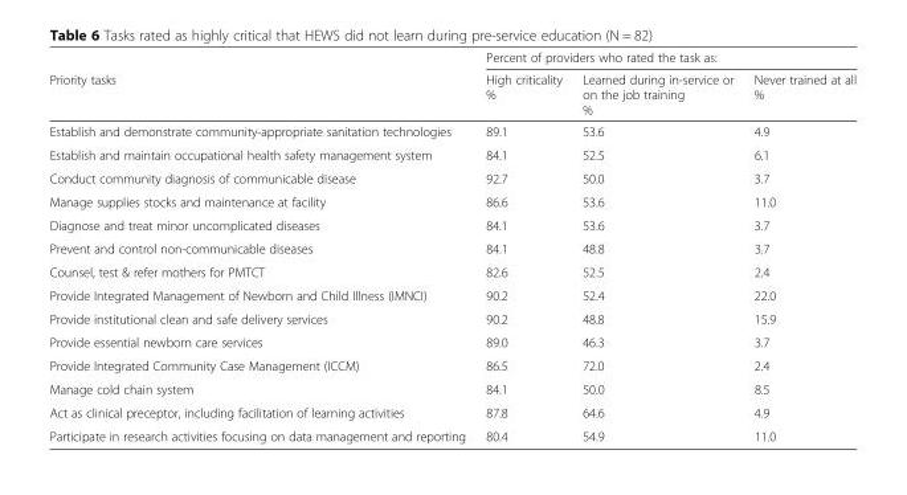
<table><thead><tr><td rowspan="2">Priority tasks</td><td colspan="3">Percent of providers who rated the task as:</td></tr><tr><td>High criticality %</td><td>Learned during in-service or on the job training %</td><td>Never trained at all %</td></tr></thead><tbody><tr><td>Establish and demonstrate community-appropriate sanitation technologies</td><td>89.1</td><td>53.6</td><td>4.9</td></tr><tr><td>Establish and maintain occupational health safety management system</td><td>84.1</td><td>52.5</td><td>6.1</td></tr><tr><td>Conduct community diagnosis of communicable disease</td><td>92.7</td><td>50.0</td><td>3.7</td></tr><tr><td>Manage supplies stocks and maintenance at facility</td><td>86.6</td><td>53.6</td><td>11.0</td></tr><tr><td>Diagnose and treat minor uncomplicated diseases</td><td>84.1</td><td>53.6</td><td>3.7</td></tr><tr><td>Prevent and control non-communicable diseases</td><td>84.1</td><td>48.8</td><td>3.7</td></tr><tr><td>Counsel, test &amp; refer mothers for PMTCT</td><td>82.6</td><td>52.5</td><td>2.4</td></tr><tr><td>Provide Integrated Management of Newborn and Child Illness (IMNCI)</td><td>90.2</td><td>52.4</td><td>22.0</td></tr><tr><td>Provide institutional clean and safe delivery services</td><td>90.2</td><td>48.8</td><td>15.9</td></tr><tr><td>Provide essential newborn care services</td><td>89.0</td><td>46.3</td><td>3.7</td></tr><tr><td>Provide Integrated Community Case Management (ICCM)</td><td>86.5</td><td>72.0</td><td>2.4</td></tr><tr><td>Manage cold chain system</td><td>84.1</td><td>50.0</td><td>8.5</td></tr><tr><td>Act as clinical preceptor, including facilitation of learning activities</td><td>87.8</td><td>64.6</td><td>4.9</td></tr><tr><td>Participate in research activities focusing on data management and reporting</td><td>80.4</td><td>54.9</td><td>11.0</td></tr></tbody></table>